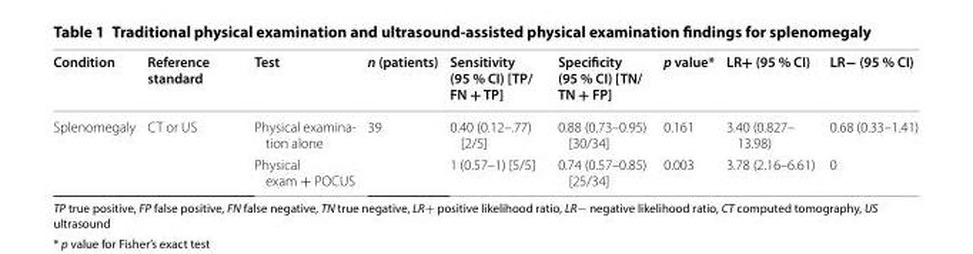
<table><thead><tr><td>Condition</td><td>Reference standard</td><td>Test</td><td>n (patients)</td><td>Sensitivity (95 % CI) [TP/ FN + TP]</td><td>Specificity (95 % CI) [TN/ TN + FP]</td><td>p value*</td><td>LR+ (95 % CI)</td><td>LR− (95 % CI)</td></tr></thead><tbody><tr><td rowspan="2">Splenomegaly</td><td rowspan="2">CT or US</td><td>Physical examina- tion alone</td><td rowspan="2">39</td><td>0.40 (0.12–.77) [2/5]</td><td>0.88 (0.73–0.95) [30/34]</td><td>0.161</td><td>3.40 (0.827– 13.98)</td><td>0.68 (0.33–1.41)</td></tr><tr><td>Physical exam + POCUS</td><td>1 (0.57–1) [5/5]</td><td>0.74 (0.57–0.85) [25/34]</td><td>0.003</td><td>3.78 (2.16–6.61)</td><td>0</td></tr></tbody></table>